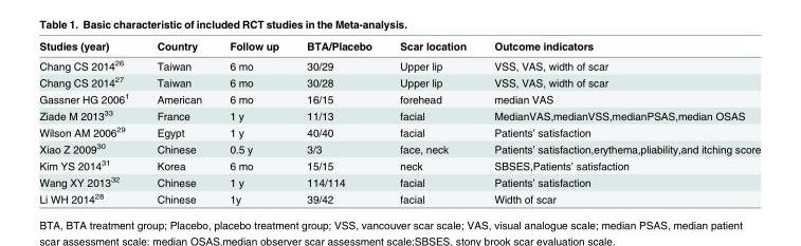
<table><thead><tr><td>Studies (year)</td><td>Country</td><td>Follow up</td><td>BTA/Placebo</td><td>Scar location</td><td>Outcome indicators</td></tr></thead><tbody><tr><td>Chang CS 2014<sup>26</sup></td><td>Taiwan</td><td>6 mo</td><td>30/29</td><td>Upper lip</td><td>VSS, VAS, width of scar</td></tr><tr><td>Chang CS 2014<sup>27</sup></td><td>Taiwan</td><td>6 mo</td><td>30/28</td><td>Upper lip</td><td>VSS, VAS, width of scar</td></tr><tr><td>Gassner HG 2006<sup>1</sup></td><td>American</td><td>6 mo</td><td>16/15</td><td>forehead</td><td>median VAS</td></tr><tr><td>Ziade M 2013<sup>33</sup></td><td>France</td><td>1 y</td><td>11/13</td><td>facial</td><td>MedianVAS,medianVSS,medianPSAS,median OSAS</td></tr><tr><td>Wilson AM 2006<sup>29</sup></td><td>Egypt</td><td>1 y</td><td>40/40</td><td>facial</td><td>Patients’ satisfaction</td></tr><tr><td>Xiao Z 2009<sup>30</sup></td><td>Chinese</td><td>0.5 y</td><td>3/3</td><td>face, neck</td><td>Patients’ satisfaction,erythema,pliability,and itching score</td></tr><tr><td>Kim YS 2014<sup>31</sup></td><td>Korea</td><td>6 mo</td><td>15/15</td><td>neck</td><td>SBSES,Patients’ satisfaction</td></tr><tr><td>Wang XY 2013<sup>32</sup></td><td>Chinese</td><td>1 y</td><td>114/114</td><td>facial</td><td>Patients’ satisfaction</td></tr><tr><td>Li WH 2014<sup>28</sup></td><td>Chinese</td><td>1y</td><td>39/42</td><td>facial</td><td>Width of scar</td></tr></tbody></table>